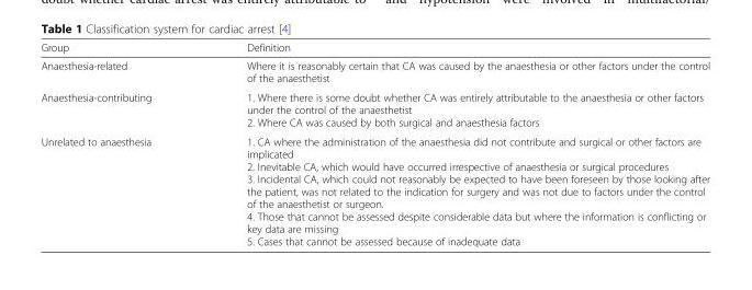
<table><thead><tr><td>Group</td><td>Definition</td></tr></thead><tbody><tr><td>Anaesthesia-related</td><td>Where it is reasonably certain that CA was caused by the anaesthesia or other factors under the control of the anaesthetist</td></tr><tr><td>Anaesthesia-contributing</td><td>1. Where there is some doubt whether CA was entirely attributable to the anaesthesia or other factors under the control of the anaesthetist 2. Where CA was caused by both surgical and anaesthesia factors</td></tr><tr><td>Unrelated to anaesthesia</td><td>1. CA where the administration of the anaesthesia did not contribute and surgical or other factors are implicated 2. Inevitable CA, which would have occurred irrespective of anaesthesia or surgical procedures 3. Incidental CA, which could not reasonably be expected to have been foreseen by those looking after the patient, was not related to the indication for surgery and was not due to factors under the control of the anaesthetist or surgeon. 4. Those that cannot be assessed despite considerable data but where the information is conflicting or key data are missing 5. Cases that cannot be assessed because of inadequate data</td></tr></tbody></table>